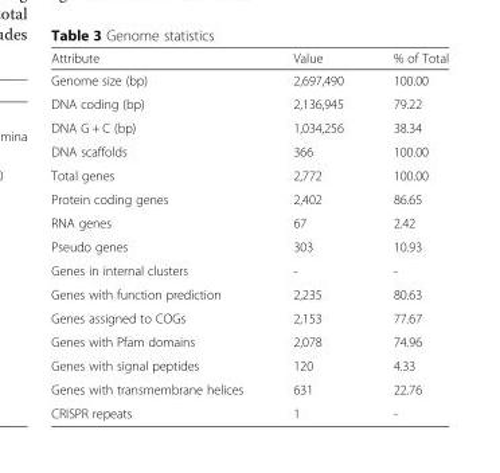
<table><thead><tr><td>Attribute</td><td>Value</td><td>% of Total</td></tr></thead><tbody><tr><td>Genome size (bp)</td><td>2,697,490</td><td>100.00</td></tr><tr><td>DNA coding (bp)</td><td>2,136,945</td><td>79.22</td></tr><tr><td>DNA G + C (bp)</td><td>1,034,256</td><td>38.34</td></tr><tr><td>DNA scaffolds</td><td>366</td><td>100.00</td></tr><tr><td>Total genes</td><td>2,772</td><td>100.00</td></tr><tr><td>Protein coding genes</td><td>2,402</td><td>86.65</td></tr><tr><td>RNA genes</td><td>67</td><td>2.42</td></tr><tr><td>Pseudo genes</td><td>303</td><td>10.93</td></tr><tr><td>Genes in internal clusters</td><td>-</td><td>-</td></tr><tr><td>Genes with function prediction</td><td>2,235</td><td>80.63</td></tr><tr><td>Genes assigned to COGs</td><td>2,153</td><td>77.67</td></tr><tr><td>Genes with Pfam domains</td><td>2,078</td><td>74.96</td></tr><tr><td>Genes with signal peptides</td><td>120</td><td>4.33</td></tr><tr><td>Genes with transmembrane helices</td><td>631</td><td>22.76</td></tr><tr><td>CRISPR repeats</td><td>1</td><td>-</td></tr></tbody></table>